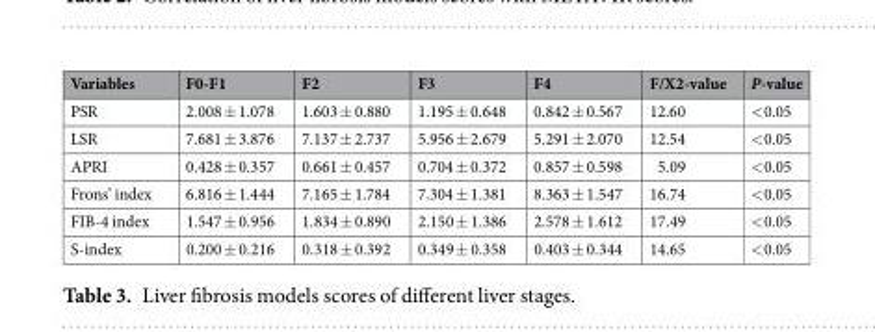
<table><thead><tr><td>Variables</td><td>F0-F1</td><td>F2</td><td>F3</td><td>F4</td><td>F/X2-value</td><td>P-value</td></tr></thead><tbody><tr><td>PSR</td><td>2.008 ± 1.078</td><td>1.603 ± 0.880</td><td>1.195 ± 0.648</td><td>0.842 ± 0.567</td><td>12.60</td><td>&lt;0.05</td></tr><tr><td>LSR</td><td>7.681 ± 3.876</td><td>7.137 ± 2.737</td><td>5.956 ± 2.679</td><td>5.291 ± 2.070</td><td>12.54</td><td>&lt;0.05</td></tr><tr><td>APRI</td><td>0.428 ± 0.357</td><td>0.661 ± 0.457</td><td>0.704 ± 0.372</td><td>0.857 ± 0.598</td><td>5.09</td><td>&lt;0.05</td></tr><tr><td>Frons’ index</td><td>6.816 ± 1.444</td><td>7.165 ± 1.784</td><td>7.304 ± 1.381</td><td>8.363 ± 1.547</td><td>16.74</td><td>&lt;0.05</td></tr><tr><td>FIB-4 index</td><td>1.547 ± 0.956</td><td>1.834 ± 0.890</td><td>2.150 ± 1.386</td><td>2.578 ± 1.612</td><td>17.49</td><td>&lt;0.05</td></tr><tr><td>S-index</td><td>0.200 ± 0.216</td><td>0.318 ± 0.392</td><td>0.349 ± 0.358</td><td>0.403 ± 0.344</td><td>14.65</td><td>&lt;0.05</td></tr></tbody></table>